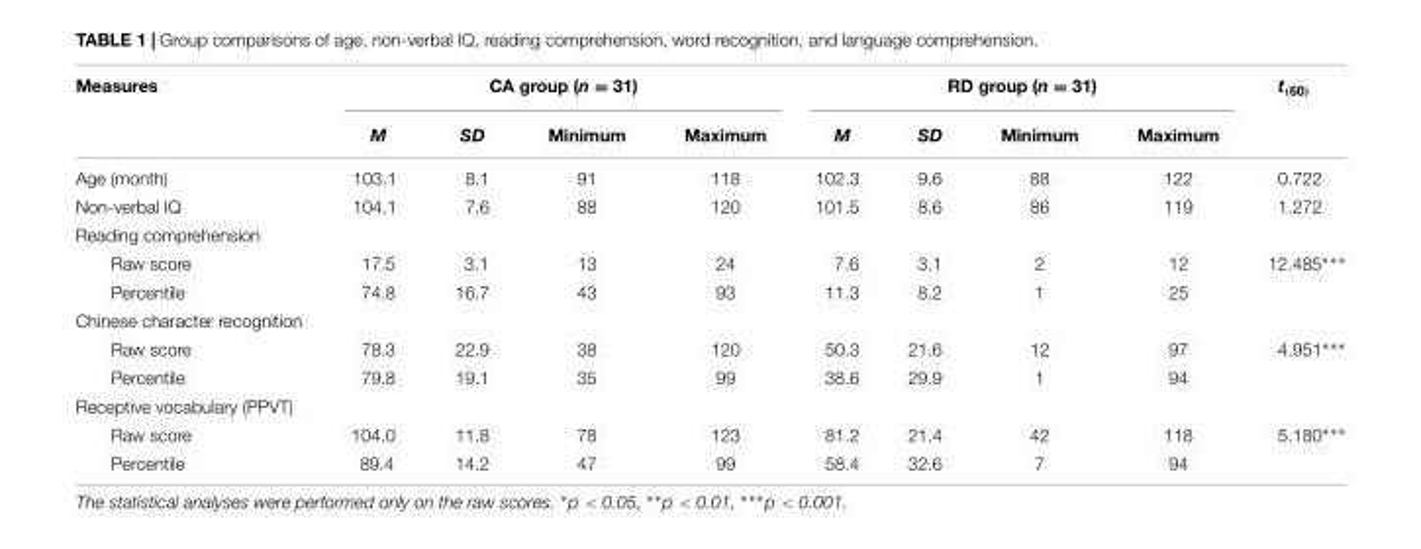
<table><thead><tr><td rowspan="2">Measures</td><td colspan="4">CA group (n = 31)</td><td colspan="4">RD group (n = 31)</td><td rowspan="2">t<sub>(60)</sub></td></tr><tr><td>M</td><td>SD</td><td>Minimum</td><td>Maximum</td><td>M</td><td>SD</td><td>Minimum</td><td>Maximum</td></tr></thead><tbody><tr><td>Age (month)</td><td>103.1</td><td>8.1</td><td>91</td><td>118</td><td>102.3</td><td>9.6</td><td>88</td><td>122</td><td>0.722</td></tr><tr><td>Non-verbal IQ</td><td>104.1</td><td>7.6</td><td>88</td><td>120</td><td>101.5</td><td>8.6</td><td>86</td><td>119</td><td>1.272</td></tr><tr><td colspan="10">Reading comprehension</td></tr><tr><td>Raw score</td><td>17.5</td><td>3.1</td><td>13</td><td>24</td><td>7.6</td><td>3.1</td><td>2</td><td>12</td><td>12.485∗∗∗</td></tr><tr><td>Percentile</td><td>74.8</td><td>16.7</td><td>43</td><td>93</td><td>11.3</td><td>8.2</td><td>1</td><td>25</td><td></td></tr><tr><td colspan="10">Chinese character recognition</td></tr><tr><td>Raw score</td><td>78.3</td><td>22.9</td><td>38</td><td>120</td><td>50.3</td><td>21.6</td><td>12</td><td>97</td><td>4.951∗∗∗</td></tr><tr><td>Percentile</td><td>79.8</td><td>19.1</td><td>35</td><td>99</td><td>38.6</td><td>29.9</td><td>1</td><td>94</td><td></td></tr><tr><td colspan="10">Receptive vocabulary (PPVT)</td></tr><tr><td>Raw score</td><td>104.0</td><td>11.8</td><td>78</td><td>123</td><td>81.2</td><td>21.4</td><td>42</td><td>118</td><td>5.180∗∗∗</td></tr><tr><td>Percentile</td><td>89.4</td><td>14.2</td><td>47</td><td>99</td><td>58.4</td><td>32.6</td><td>7</td><td>94</td><td></td></tr></tbody></table>